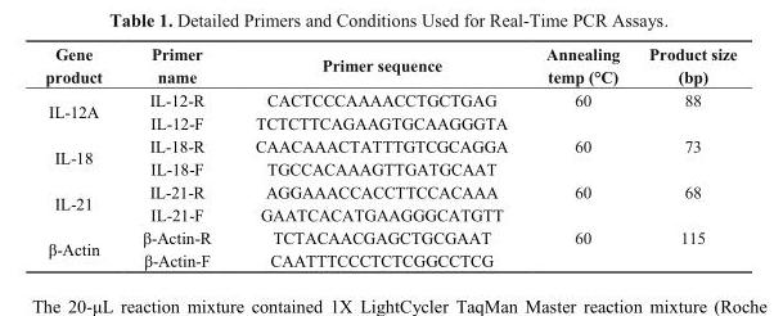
<table><thead><tr><td>Gene product</td><td>Primer name</td><td>Primer sequence</td><td>Annealing temp (°C)</td><td>Product size (bp)</td></tr></thead><tbody><tr><td rowspan="2">IL-12A</td><td>IL-12-R</td><td>CACTCCCAAAACCTGCTGAG</td><td>60</td><td>88</td></tr><tr><td>IL-12-F</td><td>TCTCTTCAGAAGTGCAAGGGTA</td><td></td><td></td></tr><tr><td rowspan="2">IL-18</td><td>IL-18-R</td><td>CAACAAACTATTTGTCGCAGGA</td><td>60</td><td>73</td></tr><tr><td>IL-18-F</td><td>TGCCACAAAGTTGATGCAAT</td><td></td><td></td></tr><tr><td rowspan="2">IL-21</td><td>IL-21-R</td><td>AGGAAACCACCTTCCACAAA</td><td>60</td><td>68</td></tr><tr><td>IL-21-F</td><td>GAATCACATGAAGGGCATGTT</td><td></td><td></td></tr><tr><td rowspan="2">β-Actin</td><td>β-Actin-R</td><td>TCTACAACGAGCTGCGAAT</td><td>60</td><td>115</td></tr><tr><td>β-Actin-F</td><td>CAATTTCCCTCTCGGCCTCG</td><td></td><td></td></tr></tbody></table>